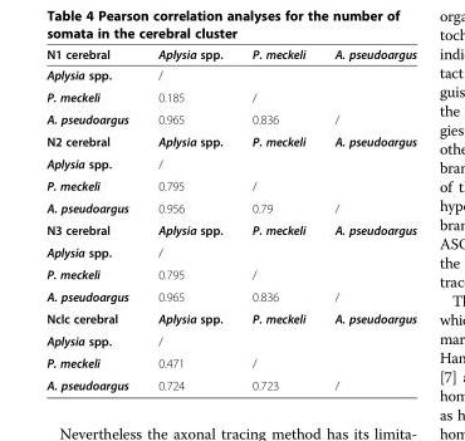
<table><thead><tr><td>N1 cerebral</td><td>Aplysia spp.</td><td>P. meckeli</td><td>A. pseudoargus</td></tr></thead><tbody><tr><td>Aplysia spp.</td><td>/</td><td></td><td></td></tr><tr><td>P. meckeli</td><td>0.185</td><td>/</td><td></td></tr><tr><td>A. pseudoargus</td><td>0.965</td><td>0.836</td><td>/</td></tr><tr><td>N2 cerebral</td><td>Aplysia spp.</td><td>P. meckeli</td><td>A. pseudoargus</td></tr><tr><td>Aplysia spp.</td><td>/</td><td></td><td></td></tr><tr><td>P. meckeli</td><td>0.795</td><td>/</td><td></td></tr><tr><td>A. pseudoargus</td><td>0.956</td><td>0.79</td><td>/</td></tr><tr><td>N3 cerebral</td><td>Aplysia spp.</td><td>P. meckeli</td><td>A. pseudoargus</td></tr><tr><td>Aplysia spp.</td><td>/</td><td></td><td></td></tr><tr><td>P. meckeli</td><td>0.795</td><td>/</td><td></td></tr><tr><td>A. pseudoargus</td><td>0.965</td><td>0.836</td><td>/</td></tr><tr><td>Nclc cerebral</td><td>Aplysia spp.</td><td>P. meckeli</td><td>A. pseudoargus</td></tr><tr><td>Aplysia spp.</td><td>/</td><td></td><td></td></tr><tr><td>P. meckeli</td><td>0.471</td><td>/</td><td></td></tr><tr><td>A. pseudoargus</td><td>0.724</td><td>0.723</td><td>/</td></tr></tbody></table>